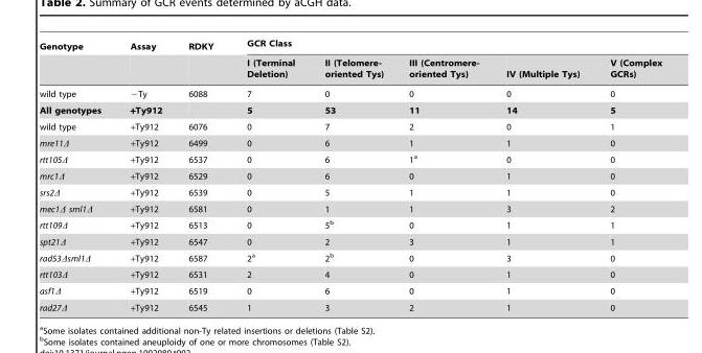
<table><thead><tr><td rowspan="2">Genotype</td><td rowspan="2">Assay</td><td rowspan="2">RDKY</td><td colspan="5">GCR Class</td></tr><tr><td>I (Terminal Deletion)</td><td>II (Telomere- oriented Tys)</td><td>III (Centromere- oriented Tys)</td><td>IV (Multiple Tys)</td><td>V (Complex GCRs)</td></tr></thead><tbody><tr><td>wild type</td><td>−Ty</td><td>6088</td><td>7</td><td>0</td><td>0</td><td>0</td><td>0</td></tr><tr><td>All genotypes</td><td>+Ty912</td><td></td><td>5</td><td>53</td><td>11</td><td>14</td><td>5</td></tr><tr><td>wild type</td><td>+Ty912</td><td>6076</td><td>0</td><td>7</td><td>2</td><td>0</td><td>1</td></tr><tr><td>mre11Δ</td><td>+Ty912</td><td>6499</td><td>0</td><td>6</td><td>1</td><td>1</td><td>0</td></tr><tr><td>rtt105Δ</td><td>+Ty912</td><td>6537</td><td>0</td><td>6</td><td>1<sup>a</sup></td><td>0</td><td>0</td></tr><tr><td>mrc1Δ</td><td>+Ty912</td><td>6529</td><td>0</td><td>6</td><td>0</td><td>1</td><td>0</td></tr><tr><td>srs2Δ</td><td>+Ty912</td><td>6539</td><td>0</td><td>5</td><td>1</td><td>1</td><td>0</td></tr><tr><td>mec1Δ sml1Δ</td><td>+Ty912</td><td>6581</td><td>0</td><td>1</td><td>1</td><td>3</td><td>2</td></tr><tr><td>rtt109Δ</td><td>+Ty912</td><td>6513</td><td>0</td><td>5<sup>b</sup></td><td>0</td><td>1</td><td>1</td></tr><tr><td>spt21Δ</td><td>+Ty912</td><td>6547</td><td>0</td><td>2</td><td>3</td><td>1</td><td>1</td></tr><tr><td>rad53Δsml1Δ</td><td>+Ty912</td><td>6587</td><td>2<sup>a</sup></td><td>2<sup>b</sup></td><td>0</td><td>3</td><td>0</td></tr><tr><td>rtt103Δ</td><td>+Ty912</td><td>6531</td><td>2</td><td>4</td><td>0</td><td>1</td><td>0</td></tr><tr><td>asf1Δ</td><td>+Ty912</td><td>6519</td><td>0</td><td>6</td><td>0</td><td>1</td><td>0</td></tr><tr><td>rad27Δ</td><td>+Ty912</td><td>6545</td><td>1</td><td>3</td><td>2</td><td>1</td><td>0</td></tr></tbody></table>